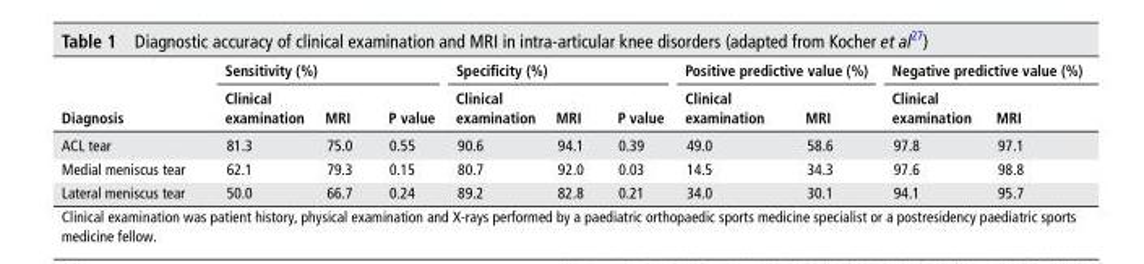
<table><thead><tr><td rowspan="2">diagnosis</td><td colspan="3">sensitivity (%)</td><td colspan="3">specificity (%)</td><td colspan="2">Positive predictive value (%)</td><td colspan="2">negative predictive value (%)</td></tr><tr><td>Clinical examination</td><td>mrI</td><td>P value</td><td>Clinical examination</td><td>mrI</td><td>P value</td><td>Clinical examination</td><td>mrI</td><td>Clinical examination</td><td>mrI</td></tr></thead><tbody><tr><td>ACL tear</td><td>81.3</td><td>75.0</td><td>0.55</td><td>90.6</td><td>94.1</td><td>0.39</td><td>49.0</td><td>58.6</td><td>97.8</td><td>97.1</td></tr><tr><td>Medial meniscus tear</td><td>62.1</td><td>79.3</td><td>0.15</td><td>80.7</td><td>92.0</td><td>0.03</td><td>14.5</td><td>34.3</td><td>97.6</td><td>98.8</td></tr><tr><td>Lateral meniscus tear</td><td>50.0</td><td>66.7</td><td>0.24</td><td>89.2</td><td>82.8</td><td>0.21</td><td>34.0</td><td>30.1</td><td>94.1</td><td>95.7</td></tr></tbody></table>